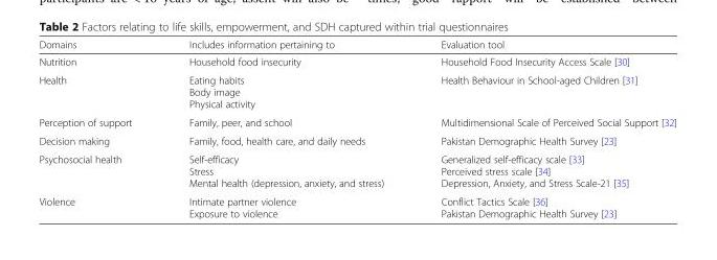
<table><thead><tr><td>Domains</td><td>Includes information pertaining to</td><td>Evaluation tool</td></tr></thead><tbody><tr><td>Nutrition</td><td>Household food insecurity</td><td>Household Food Insecurity Access Scale [30]</td></tr><tr><td>Health</td><td>Eating habits Body image Physical activity</td><td>Health Behaviour in School-aged Children [31]</td></tr><tr><td>Perception of support</td><td>Family, peer, and school</td><td>Multidimensional Scale of Perceived Social Support [32]</td></tr><tr><td>Decision making</td><td>Family, food, health care, and daily needs</td><td>Pakistan Demographic Health Survey [23]</td></tr><tr><td>Psychosocial health</td><td>Self-efficacy Stress Mental health (depression, anxiety, and stress)</td><td>Generalized self-efficacy scale [33] Perceived stress scale [34] Depression, Anxiety, and Stress Scale-21 [35]</td></tr><tr><td>Violence</td><td>Intimate partner violence Exposure to violence</td><td>Conflict Tactics Scale [36] Pakistan Demographic Health Survey [23]</td></tr></tbody></table>